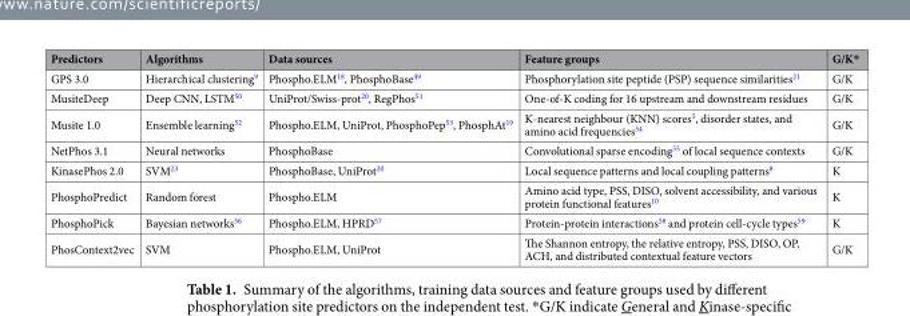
<table><thead><tr><td>Predictors</td><td>Algorithms</td><td>Data sources</td><td>Feature groups</td><td>G/K*</td></tr></thead><tbody><tr><td>GPS 3.0</td><td>Hierarchical clustering<sup>9</sup></td><td>Phospho.ELM<sup>18</sup>, PhosphoBase<sup>49</sup></td><td>Phosphorylation site peptide (PSP) sequence similarities<sup>21</sup></td><td>G/K</td></tr><tr><td>MusiteDeep</td><td>Deep CNN, LSTM<sup>50</sup></td><td>UniProt/Swiss-prot<sup>20</sup>, RegPhos<sup>51</sup></td><td>One-of-K coding for 16 upstream and downstream residues</td><td>G/K</td></tr><tr><td>Musite 1.0</td><td>Ensemble learning<sup>52</sup></td><td>Phospho.ELM, UniProt, PhosphoPep<sup>53</sup>, PhosphAt<sup>19</sup></td><td>K-nearest neighbour (KNN) scores<sup>5</sup>, disorder states, and amino acid frequencies<sup>54</sup></td><td>G/K</td></tr><tr><td>NetPhos 3.1</td><td>Neural networks</td><td>PhosphoBase</td><td>Convolutional sparse encoding<sup>55</sup> of local sequence contexts</td><td>G/K</td></tr><tr><td>KinasePhos 2.0</td><td>SVM<sup>23</sup></td><td>PhosphoBase, UniProt<sup>20</sup></td><td>Local sequence patterns and local coupling patterns<sup>8</sup></td><td>K</td></tr><tr><td>PhosphoPredict</td><td>Random forest</td><td>Phospho.ELM</td><td>Amino acid type, PSS, DISO, solvent accessibility, and various protein functional features<sup>10</sup></td><td>K</td></tr><tr><td>PhosphoPick</td><td>Bayesian networks<sup>56</sup></td><td>Phospho.ELM, HPRD<sup>57</sup></td><td>Protein-protein interactions<sup>58</sup> and protein cell-cycle types<sup>59</sup></td><td>K</td></tr><tr><td>PhosContext2vec</td><td>SVM</td><td>Phospho.ELM, UniProt</td><td>The Shannon entropy, the relative entropy, PSS, DISO, OP, ACH, and distributed contextual feature vectors</td><td>G/K</td></tr></tbody></table>